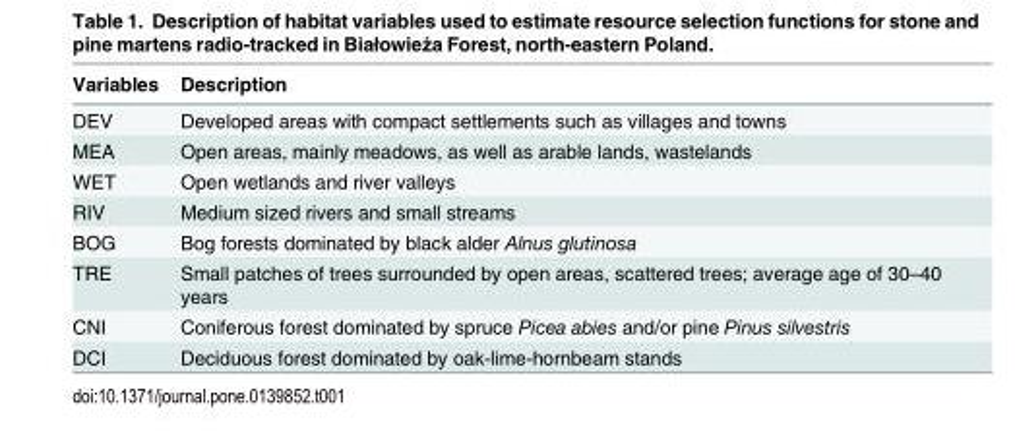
<table><thead><tr><td>Variables</td><td>Description</td></tr></thead><tbody><tr><td>DEV</td><td>Developed areas with compact settlements such as villages and towns</td></tr><tr><td>MEA</td><td>Open areas, mainly meadows, as well as arable lands, wastelands</td></tr><tr><td>WET</td><td>Open wetlands and river valleys</td></tr><tr><td>RIV</td><td>Medium sized rivers and small streams</td></tr><tr><td>BOG</td><td>Bog forests dominated by black alder Alnus glutinosa</td></tr><tr><td>TRE</td><td>Small patches of trees surrounded by open areas, scattered trees; average age of 30–40 years</td></tr><tr><td>CNI</td><td>Coniferous forest dominated by spruce Picea abies and/or pine Pinus silvestris</td></tr><tr><td>DCI</td><td>Deciduous forest dominated by oak-lime-hornbeam stands</td></tr></tbody></table>